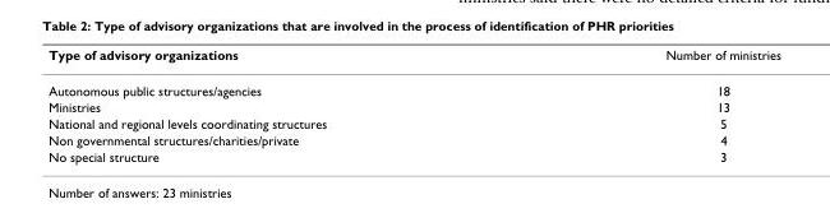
<table><thead><tr><td>Type of advisory organizations</td><td>Number of ministries</td></tr></thead><tbody><tr><td>Autonomous public structures/agencies</td><td>18</td></tr><tr><td>Ministries</td><td>13</td></tr><tr><td>National and regional levels coordinating structures</td><td>5</td></tr><tr><td>Non governmental structures/charities/private</td><td>4</td></tr><tr><td>No special structure</td><td>3</td></tr></tbody></table>